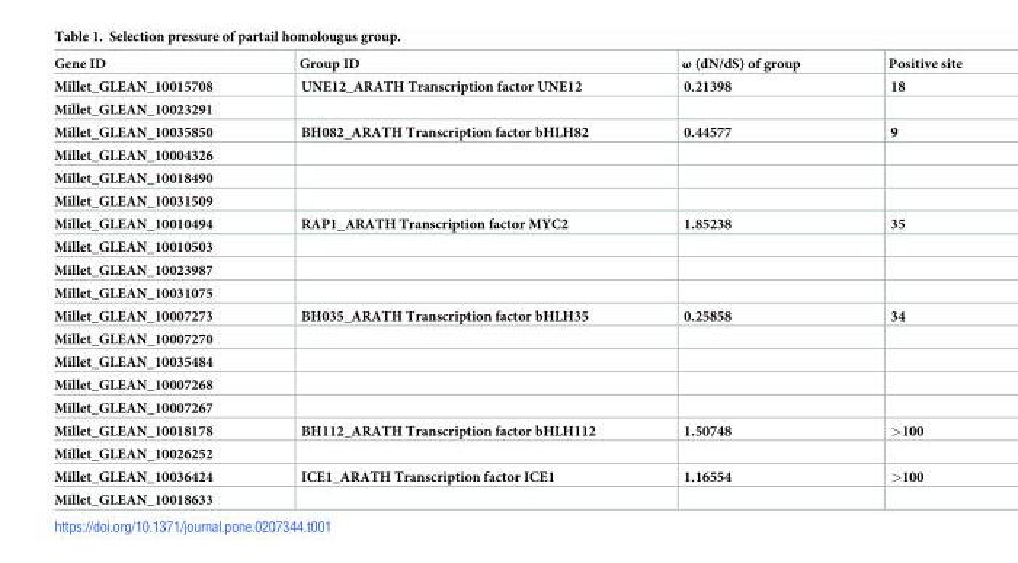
<table><thead><tr><td>Gene ID</td><td>Group ID</td><td>ω (dN/dS) of group</td><td>Positive site</td></tr></thead><tbody><tr><td>Millet_GLEAN_10015708</td><td>UNE12_ARATH Transcription factor UNE12</td><td>0.21398</td><td>18</td></tr><tr><td colspan="4">Millet_GLEAN_10023291</td></tr><tr><td>Millet_GLEAN_10035850</td><td>BH082_ARATH Transcription factor bHLH82</td><td>0.44577</td><td>9</td></tr><tr><td colspan="4">Millet_GLEAN_10004326</td></tr><tr><td colspan="4">Millet_GLEAN_10018490</td></tr><tr><td colspan="4">Millet_GLEAN_10031509</td></tr><tr><td>Millet_GLEAN_10010494</td><td>RAP1_ARATH Transcription factor MYC2</td><td>1.85238</td><td>35</td></tr><tr><td colspan="4">Millet_GLEAN_10010503</td></tr><tr><td colspan="4">Millet_GLEAN_10023987</td></tr><tr><td colspan="4">Millet_GLEAN_10031075</td></tr><tr><td>Millet_GLEAN_10007273</td><td>BH035_ARATH Transcription factor bHLH35</td><td>0.25858</td><td>34</td></tr><tr><td colspan="4">Millet_GLEAN_10007270</td></tr><tr><td colspan="4">Millet_GLEAN_10035484</td></tr><tr><td colspan="4">Millet_GLEAN_10007268</td></tr><tr><td colspan="4">Millet_GLEAN_10007267</td></tr><tr><td>Millet_GLEAN_10018178</td><td>BH112_ARATH Transcription factor bHLH112</td><td>1.50748</td><td>&gt;100</td></tr><tr><td colspan="4">Millet_GLEAN_10026252</td></tr><tr><td>Millet_GLEAN_10036424</td><td>ICE1_ARATH Transcription factor ICE1</td><td>1.16554</td><td>&gt;100</td></tr><tr><td>Millet_GLEAN_10018633</td><td></td><td></td><td></td></tr></tbody></table>